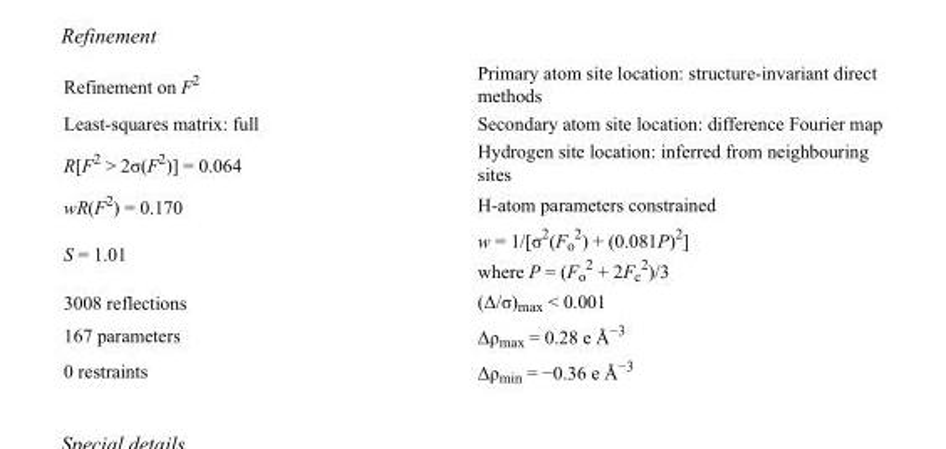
<table><tbody><tr><td>Refinement on F<sup>2</sup></td><td>Primary atom site location: structure-invariant direct methods</td></tr><tr><td>Least-squares matrix: full</td><td>Secondary atom site location: difference Fourier map</td></tr><tr><td>R[F<sup>2</sup> &gt; 2σ(F<sup>2</sup>)] = 0.064</td><td>Hydrogen site location: inferred from neighbouring sites</td></tr><tr><td>wR(F<sup>2</sup>) = 0.170</td><td>H-atom parameters constrained</td></tr><tr><td>S = 1.01</td><td>w = 1/[σ<sup>2</sup>(F<sub>o</sub> <sup>2</sup>) + (0.081P)<sup>2</sup>] where P = (F<sub>o</sub> <sup>2</sup> + 2F<sub>c</sub> <sup>2</sup>)/3</td></tr><tr><td>3008 reflections</td><td>(Δ/σ)<sub>max</sub> &lt; 0.001</td></tr><tr><td>167 parameters</td><td>Δρ<sub>max</sub> = 0.28 e Å<sup>−3</sup></td></tr><tr><td>0 restraints</td><td>Δρ<sub>min</sub> = −0.36 e Å<sup>−3</sup></td></tr></tbody></table>